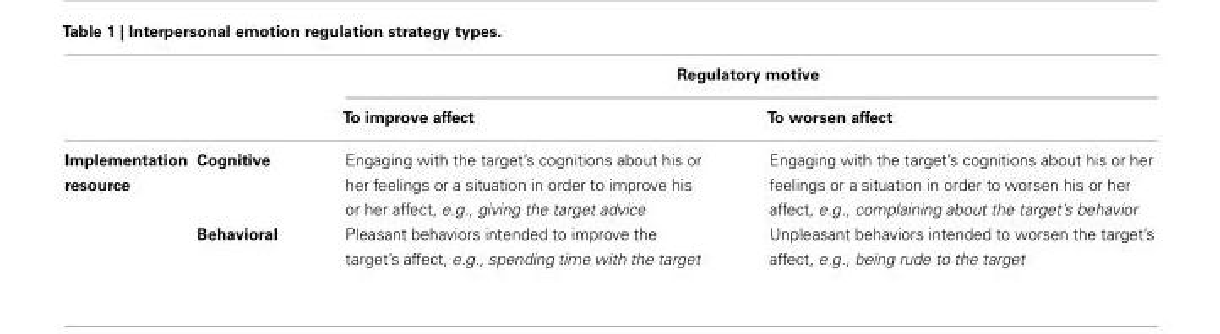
<table><thead><tr><td rowspan="2"></td><td rowspan="2"></td><td colspan="2">Regulatory motive</td></tr><tr><td>To improve affect</td><td>To worsen affect</td></tr></thead><tbody><tr><td rowspan="2">Implementation resource</td><td>Cognitive</td><td>Engaging with the target’s cognitions about his or her feelings or a situation in order to improve his or her affect, e.g., giving the target advice</td><td>Engaging with the target’s cognitions about his or her feelings or a situation in order to worsen his or her affect, e.g., complaining about the target’s behavior</td></tr><tr><td>Behavioral</td><td>Pleasant behaviors intended to improve the target’s affect, e.g., spending time with the target</td><td>Unpleasant behaviors intended to worsen the target’s affect, e.g., being rude to the target</td></tr></tbody></table>